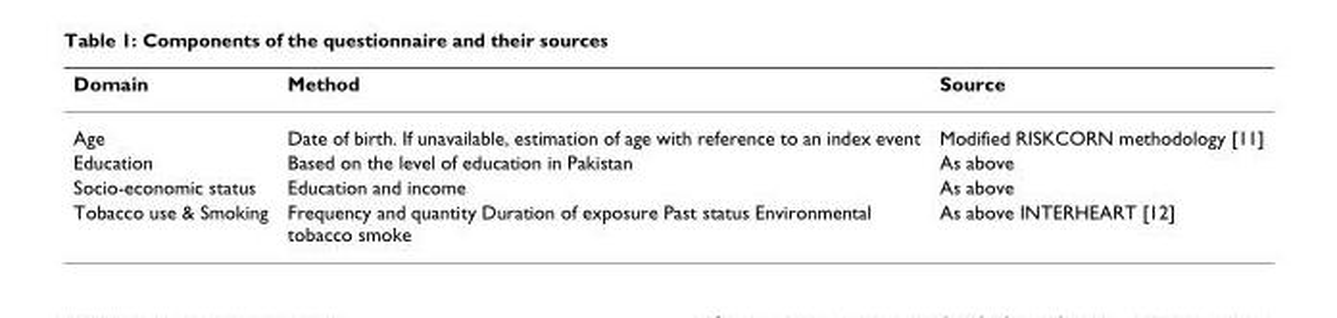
<table><thead><tr><td>Domain</td><td>Method</td><td>Source</td></tr></thead><tbody><tr><td>Age</td><td>Date of birth. If unavailable, estimation of age with reference to an index event</td><td>Modified RISKCORN methodology [11]</td></tr><tr><td>Education</td><td>Based on the level of education in Pakistan</td><td>As above</td></tr><tr><td>Socio-economic status</td><td>Education and income</td><td>As above</td></tr><tr><td>Tobacco use &amp; Smoking</td><td>Frequency and quantity Duration of exposure Past status Environmental tobacco smoke</td><td>As above INTERHEART [12]</td></tr></tbody></table>